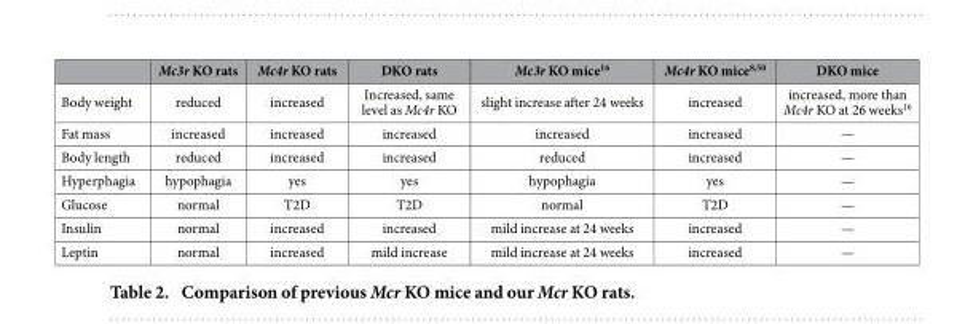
<table><thead><tr><td></td><td>Mc3r KO rats</td><td>Mc4r KO rats</td><td>DKO rats</td><td>Mc3r KO mice<sup>16</sup></td><td>Mc4r KO mice<sup>8</sup>,<sup>50</sup></td><td>DKO mice</td></tr></thead><tbody><tr><td>Body weight</td><td>reduced</td><td>increased</td><td>Increased, same level as Mc4r KO</td><td>slight increase after 24 weeks</td><td>increased</td><td>increased, more than Mc4r KO at 26 weeks<sup>16</sup></td></tr><tr><td>Fat mass</td><td>increased</td><td>increased</td><td>increased</td><td>increased</td><td>increased</td><td>—</td></tr><tr><td>Body length</td><td>reduced</td><td>increased</td><td>increased</td><td>reduced</td><td>increased</td><td>—</td></tr><tr><td>Hyperphagia</td><td>hypophagia</td><td>yes</td><td>yes</td><td>hypophagia</td><td>yes</td><td>—</td></tr><tr><td>Glucose</td><td>normal</td><td>T2D</td><td>T2D</td><td>normal</td><td>T2D</td><td>—</td></tr><tr><td>Insulin</td><td>normal</td><td>increased</td><td>increased</td><td>mild increase at 24 weeks</td><td>increased</td><td>—</td></tr><tr><td>Leptin</td><td>normal</td><td>increased</td><td>mild increase</td><td>mild increase at 24 weeks</td><td>increased</td><td>—</td></tr></tbody></table>